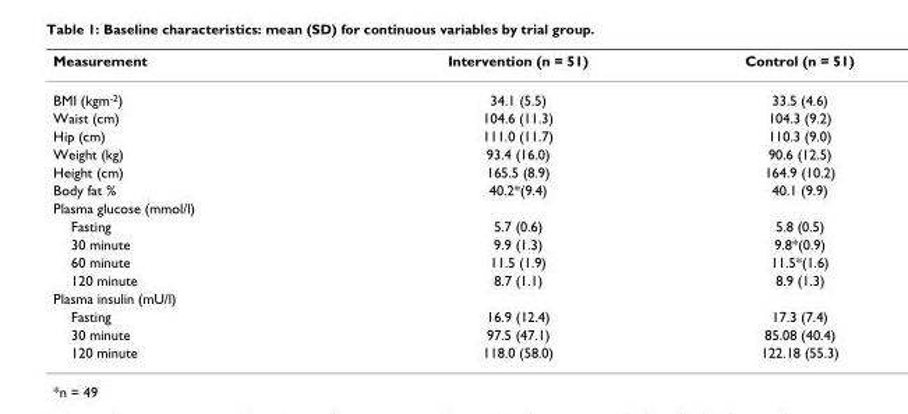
<table><thead><tr><td>Measurement</td><td>Intervention (n = 51)</td><td>Control (n = 51)</td></tr></thead><tbody><tr><td>BMI (kgm<sup>-2</sup>)</td><td>34.1 (5.5)</td><td>33.5 (4.6)</td></tr><tr><td>Waist (cm)</td><td>104.6 (11.3)</td><td>104.3 (9.2)</td></tr><tr><td>Hip (cm)</td><td>111.0 (11.7)</td><td>110.3 (9.0)</td></tr><tr><td>Weight (kg)</td><td>93.4 (16.0)</td><td>90.6 (12.5)</td></tr><tr><td>Height (cm)</td><td>165.5 (8.9)</td><td>164.9 (10.2)</td></tr><tr><td>Body fat %</td><td>40.2*(9.4)</td><td>40.1 (9.9)</td></tr><tr><td colspan="3">Plasma glucose (mmol/l)</td></tr><tr><td>Fasting</td><td>5.7 (0.6)</td><td>5.8 (0.5)</td></tr><tr><td>30 minute</td><td>9.9 (1.3)</td><td>9.8*(0.9)</td></tr><tr><td>60 minute</td><td>11.5 (1.9)</td><td>11.5*(1.6)</td></tr><tr><td>120 minute</td><td>8.7 (1.1)</td><td>8.9 (1.3)</td></tr><tr><td colspan="3">Plasma insulin (mU/l)</td></tr><tr><td>Fasting</td><td>16.9 (12.4)</td><td>17.3 (7.4)</td></tr><tr><td>30 minute</td><td>97.5 (47.1)</td><td>85.08 (40.4)</td></tr><tr><td>120 minute</td><td>118.0 (58.0)</td><td>122.18 (55.3)</td></tr></tbody></table>